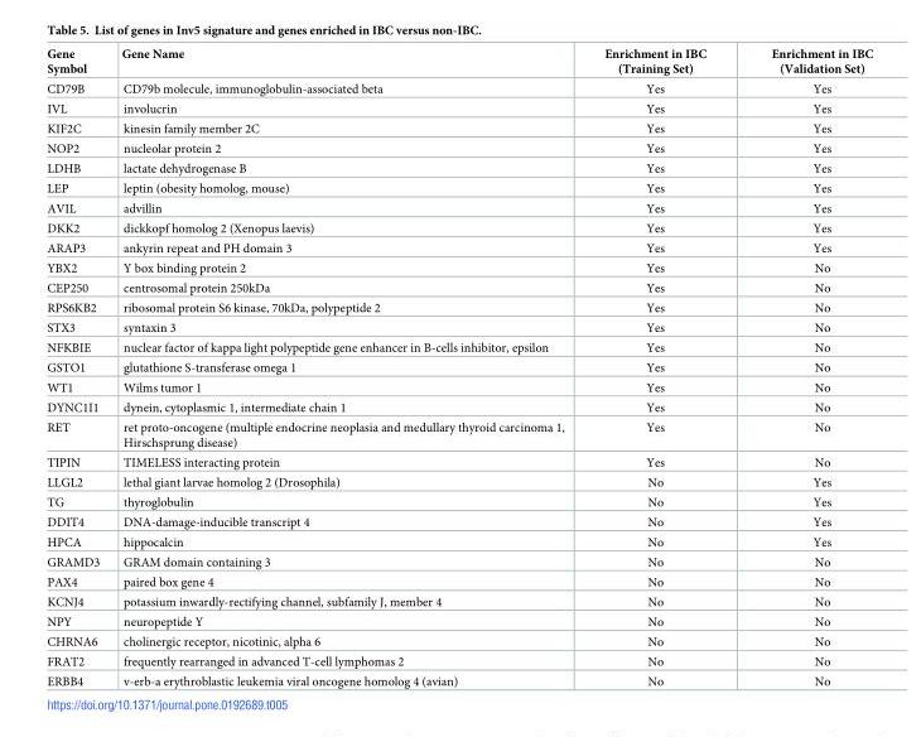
<table><thead><tr><td>Gene Symbol</td><td>Gene Name</td><td>Enrichment in IBC (Training Set)</td><td>Enrichment in IBC (Validation Set)</td></tr></thead><tbody><tr><td>CD79B</td><td>CD79b molecule, immunoglobulin-associated beta</td><td>Yes</td><td>Yes</td></tr><tr><td>IVL</td><td>involucrin</td><td>Yes</td><td>Yes</td></tr><tr><td>KIF2C</td><td>kinesin family member 2C</td><td>Yes</td><td>Yes</td></tr><tr><td>NOP2</td><td>nucleolar protein 2</td><td>Yes</td><td>Yes</td></tr><tr><td>LDHB</td><td>lactate dehydrogenase B</td><td>Yes</td><td>Yes</td></tr><tr><td>LEP</td><td>leptin (obesity homolog, mouse)</td><td>Yes</td><td>Yes</td></tr><tr><td>AVIL</td><td>advillin</td><td>Yes</td><td>Yes</td></tr><tr><td>DKK2</td><td>dickkopf homolog 2 (Xenopus laevis)</td><td>Yes</td><td>Yes</td></tr><tr><td>ARAP3</td><td>ankyrin repeat and PH domain 3</td><td>Yes</td><td>Yes</td></tr><tr><td>YBX2</td><td>Y box binding protein 2</td><td>Yes</td><td>No</td></tr><tr><td>CEP250</td><td>centrosomal protein 250kDa</td><td>Yes</td><td>No</td></tr><tr><td>RPS6KB2</td><td>ribosomal protein S6 kinase, 70kDa, polypeptide 2</td><td>Yes</td><td>No</td></tr><tr><td>STX3</td><td>syntaxin 3</td><td>Yes</td><td>No</td></tr><tr><td>NFKBIE</td><td>nuclear factor of kappa light polypeptide gene enhancer in B-cells inhibitor, epsilon</td><td>Yes</td><td>No</td></tr><tr><td>GSTO1</td><td>glutathione S-transferase omega 1</td><td>Yes</td><td>No</td></tr><tr><td>WT1</td><td>Wilms tumor 1</td><td>Yes</td><td>No</td></tr><tr><td>DYNC1I1</td><td>dynein, cytoplasmic 1, intermediate chain 1</td><td>Yes</td><td>No</td></tr><tr><td>RET</td><td>ret proto-oncogene (multiple endocrine neoplasia and medullary thyroid carcinoma 1, Hirschsprung disease)</td><td>Yes</td><td>No</td></tr><tr><td>TIPIN</td><td>TIMELESS interacting protein</td><td>Yes</td><td>No</td></tr><tr><td>LLGL2</td><td>lethal giant larvae homolog 2 (Drosophila)</td><td>No</td><td>Yes</td></tr><tr><td>TG</td><td>thyroglobulin</td><td>No</td><td>Yes</td></tr><tr><td>DDIT4</td><td>DNA-damage-inducible transcript 4</td><td>No</td><td>Yes</td></tr><tr><td>HPCA</td><td>hippocalcin</td><td>No</td><td>Yes</td></tr><tr><td>GRAMD3</td><td>GRAM domain containing 3</td><td>No</td><td>No</td></tr><tr><td>PAX4</td><td>paired box gene 4</td><td>No</td><td>No</td></tr><tr><td>KCNJ4</td><td>potassium inwardly-rectifying channel, subfamily J, member 4</td><td>No</td><td>No</td></tr><tr><td>NPY</td><td>neuropeptide Y</td><td>No</td><td>No</td></tr><tr><td>CHRNA6</td><td>cholinergic receptor, nicotinic, alpha 6</td><td>No</td><td>No</td></tr><tr><td>FRAT2</td><td>frequently rearranged in advanced T-cell lymphomas 2</td><td>No</td><td>No</td></tr><tr><td>ERBB4</td><td>v-erb-a erythroblastic leukemia viral oncogene homolog 4 (avian)</td><td>No</td><td>No</td></tr></tbody></table>